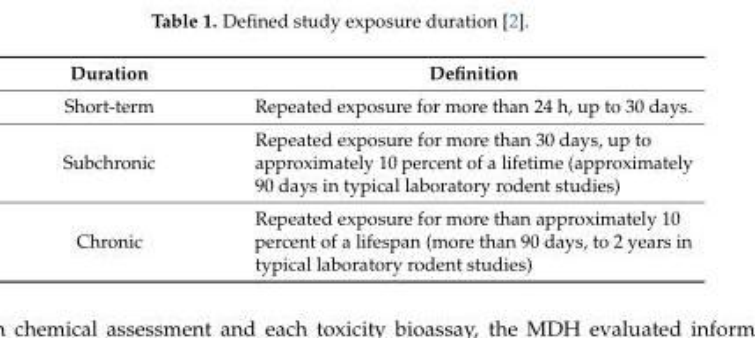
<table><thead><tr><td>Duration</td><td>Definition</td></tr></thead><tbody><tr><td>Short-term</td><td>Repeated exposure for more than 24 h, up to 30 days.</td></tr><tr><td>Subchronic</td><td>Repeated exposure for more than 30 days, up to approximately 10 percent of a lifetime (approximately 90 days in typical laboratory rodent studies)</td></tr><tr><td>Chronic</td><td>Repeated exposure for more than approximately 10 percent of a lifespan (more than 90 days, to 2 years in typical laboratory rodent studies)</td></tr></tbody></table>